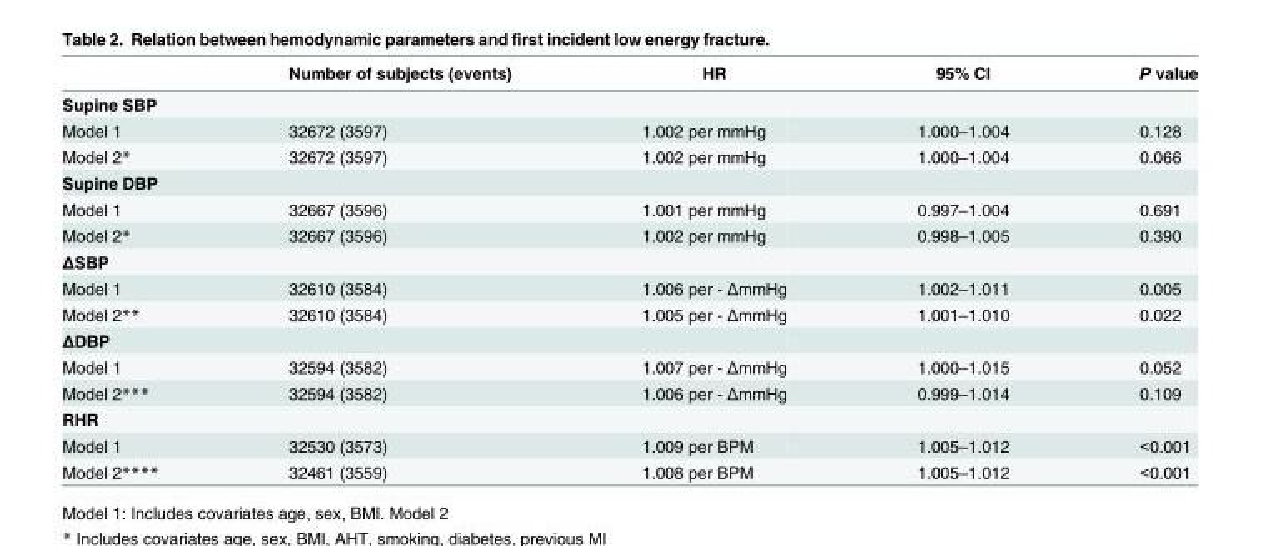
<table><thead><tr><td></td><td>Number of subjects (events)</td><td>HR</td><td>95% CI</td><td>P value</td></tr></thead><tbody><tr><td colspan="5">Supine SBP</td></tr><tr><td>Model 1</td><td>32672 (3597)</td><td>1.002 per mmHg</td><td>1.000–1.004</td><td>0.128</td></tr><tr><td>Model 2*</td><td>32672 (3597)</td><td>1.002 per mmHg</td><td>1.000–1.004</td><td>0.066</td></tr><tr><td colspan="5">Supine DBP</td></tr><tr><td>Model 1</td><td>32667 (3596)</td><td>1.001 per mmHg</td><td>0.997–1.004</td><td>0.691</td></tr><tr><td>Model 2*</td><td>32667 (3596)</td><td>1.002 per mmHg</td><td>0.998–1.005</td><td>0.390</td></tr><tr><td colspan="5">ΔSBP</td></tr><tr><td>Model 1</td><td>32610 (3584)</td><td>1.006 per - ΔmmHg</td><td>1.002–1.011</td><td>0.005</td></tr><tr><td>Model 2**</td><td>32610 (3584)</td><td>1.005 per - ΔmmHg</td><td>1.001–1.010</td><td>0.022</td></tr><tr><td colspan="5">ΔDBP</td></tr><tr><td>Model 1</td><td>32594 (3582)</td><td>1.007 per - ΔmmHg</td><td>1.000–1.015</td><td>0.052</td></tr><tr><td>Model 2***</td><td>32594 (3582)</td><td>1.006 per - ΔmmHg</td><td>0.999–1.014</td><td>0.109</td></tr><tr><td colspan="5">RHR</td></tr><tr><td>Model 1</td><td>32530 (3573)</td><td>1.009 per BPM</td><td>1.005–1.012</td><td>&lt;0.001</td></tr><tr><td>Model 2****</td><td>32461 (3559)</td><td>1.008 per BPM</td><td>1.005–1.012</td><td>&lt;0.001</td></tr></tbody></table>